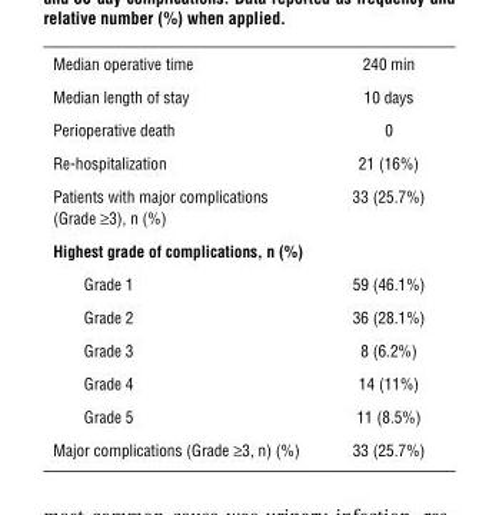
<table><thead><tr><td>Median operative time</td><td>240 min</td></tr></thead><tbody><tr><td>Median length of stay</td><td>10 days</td></tr><tr><td>Perioperative death</td><td>0</td></tr><tr><td>Re-hospitalization</td><td>21 (16%)</td></tr><tr><td>Patients with major complications (Grade ≥3), n (%)</td><td>33 (25.7%)</td></tr><tr><td colspan="2">highest grade of complications, n (%)</td></tr><tr><td>Grade 1</td><td>59 (46.1%)</td></tr><tr><td>Grade 2</td><td>36 (28.1%)</td></tr><tr><td>Grade 3</td><td>8 (6.2%)</td></tr><tr><td>Grade 4</td><td>14 (11%)</td></tr><tr><td>Grade 5</td><td>11 (8.5%)</td></tr><tr><td>Major complications (Grade ≥3, n) (%)</td><td>33 (25.7%)</td></tr></tbody></table>